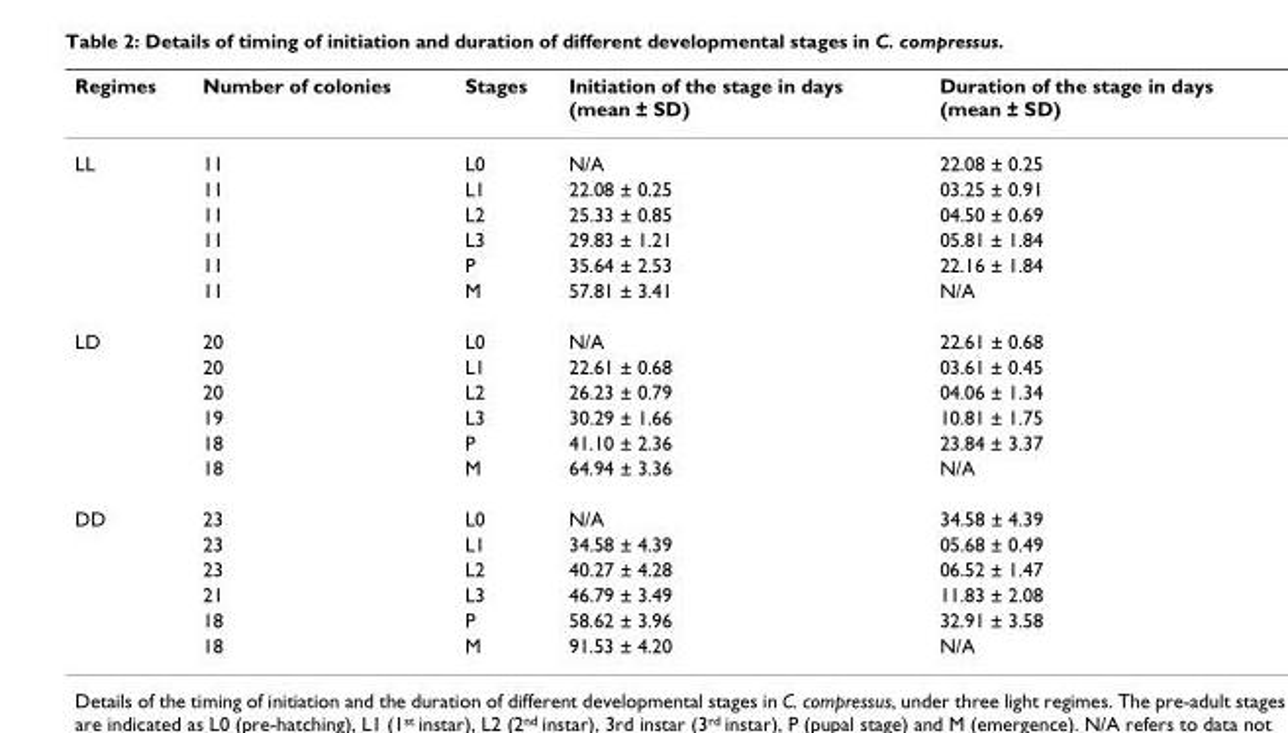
<table><thead><tr><td>Regimes</td><td>Number of colonies</td><td>Stages</td><td>Initiation of the stage in days (mean ± SD)</td><td>Duration of the stage in days (mean ± SD)</td></tr></thead><tbody><tr><td rowspan="6">LL</td><td>11</td><td>L0</td><td>N/A</td><td>22.08 ± 0.25</td></tr><tr><td>11</td><td>L1</td><td>22.08 ± 0.25</td><td>03.25 ± 0.91</td></tr><tr><td>11</td><td>L2</td><td>25.33 ± 0.85</td><td>04.50 ± 0.69</td></tr><tr><td>11</td><td>L3</td><td>29.83 ± 1.21</td><td>05.81 ± 1.84</td></tr><tr><td>11</td><td>P</td><td>35.64 ± 2.53</td><td>22.16 ± 1.84</td></tr><tr><td>11</td><td>M</td><td>57.81 ± 3.41</td><td>N/A</td></tr><tr><td rowspan="6">LD</td><td>20</td><td>L0</td><td>N/A</td><td>22.61 ± 0.68</td></tr><tr><td>20</td><td>L1</td><td>22.61 ± 0.68</td><td>03.61 ± 0.45</td></tr><tr><td>20</td><td>L2</td><td>26.23 ± 0.79</td><td>04.06 ± 1.34</td></tr><tr><td>19</td><td>L3</td><td>30.29 ± 1.66</td><td>10.81 ± 1.75</td></tr><tr><td>18</td><td>P</td><td>41.10 ± 2.36</td><td>23.84 ± 3.37</td></tr><tr><td>18</td><td>M</td><td>64.94 ± 3.36</td><td>N/A</td></tr><tr><td rowspan="6">DD</td><td>23</td><td>L0</td><td>N/A</td><td>34.58 ± 4.39</td></tr><tr><td>23</td><td>L1</td><td>34.58 ± 4.39</td><td>05.68 ± 0.49</td></tr><tr><td>23</td><td>L2</td><td>40.27 ± 4.28</td><td>06.52 ± 1.47</td></tr><tr><td>21</td><td>L3</td><td>46.79 ± 3.49</td><td>11.83 ± 2.08</td></tr><tr><td>18</td><td>P</td><td>58.62 ± 3.96</td><td>32.91 ± 3.58</td></tr><tr><td>18</td><td>M</td><td>91.53 ± 4.20</td><td>N/A</td></tr></tbody></table>